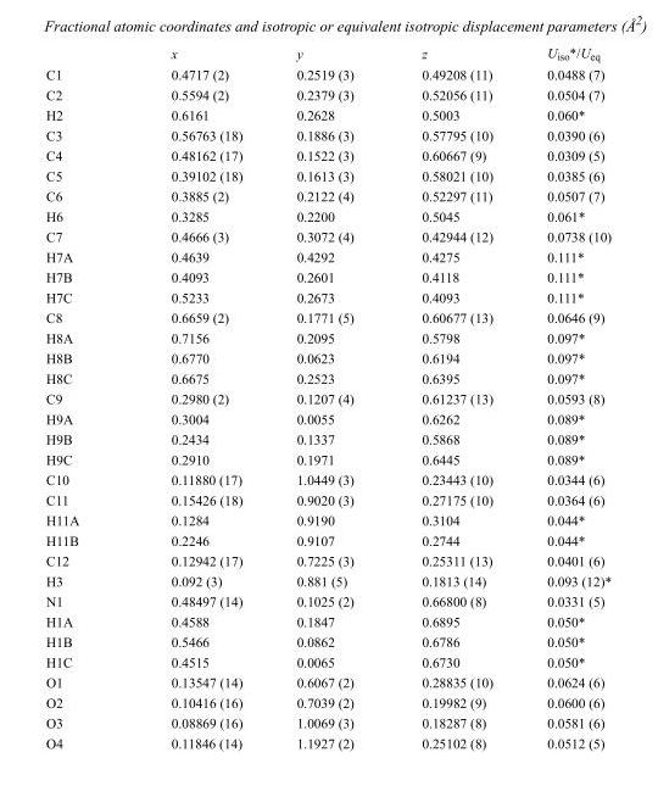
<table><thead><tr><td></td><td>x</td><td>y</td><td>z</td><td>U<sub>iso</sub>*/U<sub>eq</sub></td></tr></thead><tbody><tr><td>C1</td><td>0.4717 (2)</td><td>0.2519 (3)</td><td>0.49208 (11)</td><td>0.0488 (7)</td></tr><tr><td>C2</td><td>0.5594 (2)</td><td>0.2379 (3)</td><td>0.52056 (11)</td><td>0.0504 (7)</td></tr><tr><td>H2</td><td>0.6161</td><td>0.2628</td><td>0.5003</td><td>0.060*</td></tr><tr><td>C3</td><td>0.56763 (18)</td><td>0.1886 (3)</td><td>0.57795 (10)</td><td>0.0390 (6)</td></tr><tr><td>C4</td><td>0.48162 (17)</td><td>0.1522 (3)</td><td>0.60667 (9)</td><td>0.0309 (5)</td></tr><tr><td>C5</td><td>0.39102 (18)</td><td>0.1613 (3)</td><td>0.58021 (10)</td><td>0.0385 (6)</td></tr><tr><td>C6</td><td>0.3885 (2)</td><td>0.2122 (4)</td><td>0.52297 (11)</td><td>0.0507 (7)</td></tr><tr><td>H6</td><td>0.3285</td><td>0.2200</td><td>0.5045</td><td>0.061*</td></tr><tr><td>C7</td><td>0.4666 (3)</td><td>0.3072 (4)</td><td>0.42944 (12)</td><td>0.0738 (10)</td></tr><tr><td>H7A</td><td>0.4639</td><td>0.4292</td><td>0.4275</td><td>0.111*</td></tr><tr><td>H7B</td><td>0.4093</td><td>0.2601</td><td>0.4118</td><td>0.111*</td></tr><tr><td>H7C</td><td>0.5233</td><td>0.2673</td><td>0.4093</td><td>0.111*</td></tr><tr><td>C8</td><td>0.6659 (2)</td><td>0.1771 (5)</td><td>0.60677 (13)</td><td>0.0646 (9)</td></tr><tr><td>H8A</td><td>0.7156</td><td>0.2095</td><td>0.5798</td><td>0.097*</td></tr><tr><td>H8B</td><td>0.6770</td><td>0.0623</td><td>0.6194</td><td>0.097*</td></tr><tr><td>H8C</td><td>0.6675</td><td>0.2523</td><td>0.6395</td><td>0.097*</td></tr><tr><td>C9</td><td>0.2980 (2)</td><td>0.1207 (4)</td><td>0.61237 (13)</td><td>0.0593 (8)</td></tr><tr><td>H9A</td><td>0.3004</td><td>0.0055</td><td>0.6262</td><td>0.089*</td></tr><tr><td>H9B</td><td>0.2434</td><td>0.1337</td><td>0.5868</td><td>0.089*</td></tr><tr><td>H9C</td><td>0.2910</td><td>0.1971</td><td>0.6445</td><td>0.089*</td></tr><tr><td>C10</td><td>0.11880 (17)</td><td>1.0449 (3)</td><td>0.23443 (10)</td><td>0.0344 (6)</td></tr><tr><td>C11</td><td>0.15426 (18)</td><td>0.9020 (3)</td><td>0.27175 (10)</td><td>0.0364 (6)</td></tr><tr><td>H11A</td><td>0.1284</td><td>0.9190</td><td>0.3104</td><td>0.044*</td></tr><tr><td>H11B</td><td>0.2246</td><td>0.9107</td><td>0.2744</td><td>0.044*</td></tr><tr><td>C12</td><td>0.12942 (17)</td><td>0.7225 (3)</td><td>0.25311 (13)</td><td>0.0401 (6)</td></tr><tr><td>H3</td><td>0.092 (3)</td><td>0.881 (5)</td><td>0.1813 (14)</td><td>0.093 (12)*</td></tr><tr><td>N1</td><td>0.48497 (14)</td><td>0.1025 (2)</td><td>0.66800 (8)</td><td>0.0331 (5)</td></tr><tr><td>H1A</td><td>0.4588</td><td>0.1847</td><td>0.6895</td><td>0.050*</td></tr><tr><td>H1B</td><td>0.5466</td><td>0.0862</td><td>0.6786</td><td>0.050*</td></tr><tr><td>H1C</td><td>0.4515</td><td>0.0065</td><td>0.6730</td><td>0.050*</td></tr><tr><td>O1</td><td>0.13547 (14)</td><td>0.6067 (2)</td><td>0.28835 (10)</td><td>0.0624 (6)</td></tr><tr><td>O2</td><td>0.10416 (16)</td><td>0.7039 (2)</td><td>0.19982 (9)</td><td>0.0600 (6)</td></tr><tr><td>O3</td><td>0.08869 (16)</td><td>1.0069 (3)</td><td>0.18287 (8)</td><td>0.0581 (6)</td></tr><tr><td>O4</td><td>0.11846 (14)</td><td>1.1927 (2)</td><td>0.25102 (8)</td><td>0.0512 (5)</td></tr></tbody></table>